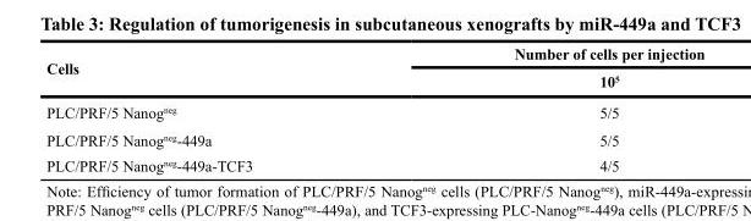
<table><thead><tr><td rowspan="2">Cells</td><td rowspan="2">Number of cells per injection 10<sup>5</sup></td></tr><tr></tr></thead><tbody><tr><td>PLC/PRF/5 Nanog<sup>neg</sup></td><td>5/5</td></tr><tr><td>PLC/PRF/5 Nanog<sup>neg</sup>-449a</td><td>5/5</td></tr><tr><td>PLC/PRF/5 Nanog<sup>neg</sup>-449a-TCF3</td><td>4/5</td></tr></tbody></table>